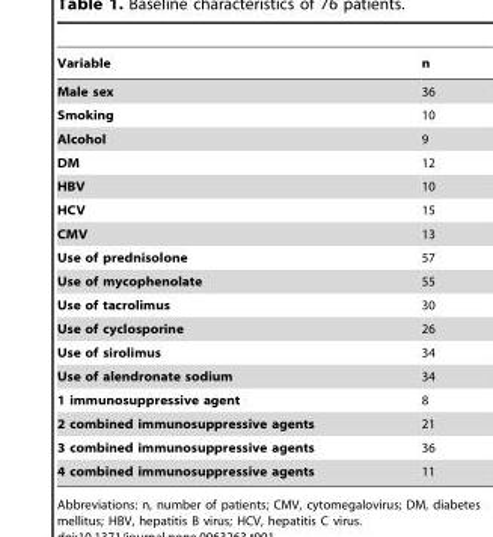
<table><thead><tr><td>Variable</td><td>n</td></tr></thead><tbody><tr><td>Male sex</td><td>36</td></tr><tr><td>Smoking</td><td>10</td></tr><tr><td>Alcohol</td><td>9</td></tr><tr><td>DM</td><td>12</td></tr><tr><td>HBV</td><td>10</td></tr><tr><td>HCV</td><td>15</td></tr><tr><td>CMV</td><td>13</td></tr><tr><td>Use of prednisolone</td><td>57</td></tr><tr><td>Use of mycophenolate</td><td>55</td></tr><tr><td>Use of tacrolimus</td><td>30</td></tr><tr><td>Use of cyclosporine</td><td>26</td></tr><tr><td>Use of sirolimus</td><td>34</td></tr><tr><td>Use of alendronate sodium</td><td>34</td></tr><tr><td>1 immunosuppressive agent</td><td>8</td></tr><tr><td>2 combined immunosuppressive agents</td><td>21</td></tr><tr><td>3 combined immunosuppressive agents</td><td>36</td></tr><tr><td>4 combined immunosuppressive agents</td><td>11</td></tr></tbody></table>